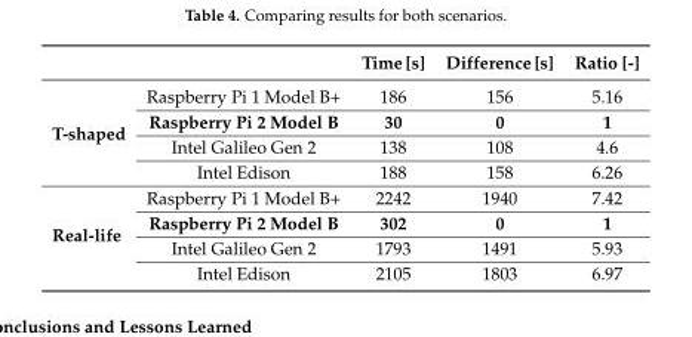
<table><thead><tr><td></td><td></td><td>Time [s]</td><td>Difference [s]</td><td>Ratio [-]</td></tr></thead><tbody><tr><td rowspan="4">T-shaped</td><td>Raspberry Pi 1 Model B+</td><td>186</td><td>156</td><td>5.16</td></tr><tr><td>Raspberry Pi 2 Model B</td><td>30</td><td>0</td><td>1</td></tr><tr><td>Intel Galileo Gen 2</td><td>138</td><td>108</td><td>4.6</td></tr><tr><td>Intel Edison</td><td>188</td><td>158</td><td>6.26</td></tr><tr><td rowspan="4">Real-life</td><td>Raspberry Pi 1 Model B+</td><td>2242</td><td>1940</td><td>7.42</td></tr><tr><td>Raspberry Pi 2 Model B</td><td>302</td><td>0</td><td>1</td></tr><tr><td>Intel Galileo Gen 2</td><td>1793</td><td>1491</td><td>5.93</td></tr><tr><td>Intel Edison</td><td>2105</td><td>1803</td><td>6.97</td></tr></tbody></table>